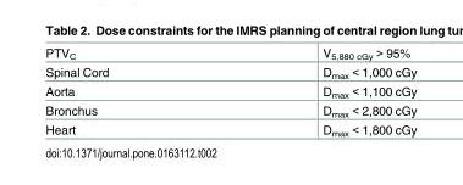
<table><tbody><tr><td>PTV<sub>C</sub></td><td>V<sub>5,880 cGy</sub> &gt; 95%</td></tr><tr><td>Spinal Cord</td><td>D<sub>max</sub> &lt; 1,000 cGy</td></tr><tr><td>Aorta</td><td>D<sub>max</sub> &lt; 1,100 cGy</td></tr><tr><td>Bronchus</td><td>D<sub>max</sub> &lt; 2,800 cGy</td></tr><tr><td>Heart</td><td>D<sub>max</sub> &lt; 1,800 cGy</td></tr></tbody></table>